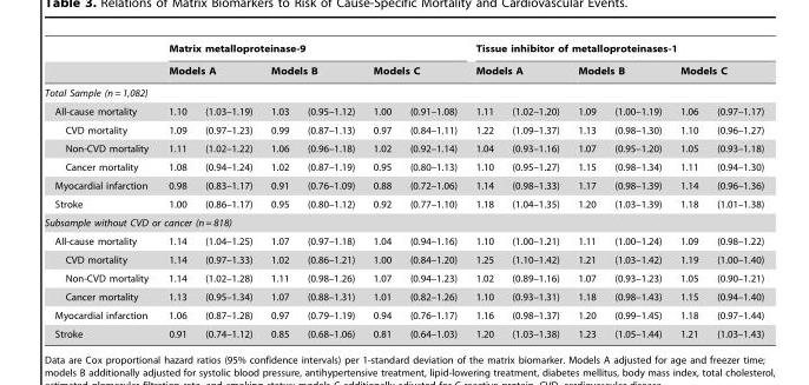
<table><thead><tr><td rowspan="2"></td><td colspan="6">Matrix metalloproteinase-9</td><td colspan="6">Tissue inhibitor of metalloproteinases-1</td></tr><tr><td colspan="2">Models A</td><td colspan="2">Models B</td><td colspan="2">Models C</td><td colspan="2">Models A</td><td colspan="2">Models B</td><td colspan="2">Models C</td></tr><tr><td colspan="13">Total Sample (n = 1,082)</td></tr><tr><td>All-cause mortality</td><td>1.10</td><td>(1.03–1.19)</td><td>1.03</td><td>(0.95–1.12)</td><td>1.00</td><td>(0.91–1.08)</td><td>1.11</td><td>(1.02–1.20)</td><td>1.09</td><td>(1.00–1.19)</td><td>1.06</td><td>(0.97–1.17)</td></tr></thead><tbody><tr><td>CVD mortality</td><td>1.09</td><td>(0.97–1.23)</td><td>0.99</td><td>(0.87–1.13)</td><td>0.97</td><td>(0.84–1.11)</td><td>1.22</td><td>(1.09–1.37)</td><td>1.13</td><td>(0.98–1.30)</td><td>1.10</td><td>(0.96–1.27)</td></tr><tr><td>Non-CVD mortality</td><td>1.11</td><td>(1.02–1.22)</td><td>1.06</td><td>(0.96–1.18)</td><td>1.02</td><td>(0.92–1.14)</td><td>1.04</td><td>(0.93–1.16)</td><td>1.07</td><td>(0.95–1.20)</td><td>1.05</td><td>(0.93–1.18)</td></tr><tr><td>Cancer mortality</td><td>1.08</td><td>(0.94–1.24)</td><td>1.02</td><td>(0.87–1.19)</td><td>0.95</td><td>(0.80–1.13)</td><td>1.10</td><td>(0.95–1.27)</td><td>1.15</td><td>(0.98–1.34)</td><td>1.11</td><td>(0.94–1.30)</td></tr><tr><td>Myocardial infarction</td><td>0.98</td><td>(0.83–1.17)</td><td>0.91</td><td>(0.76–1.09)</td><td>0.88</td><td>(0.72–1.06)</td><td>1.14</td><td>(0.98–1.33)</td><td>1.17</td><td>(0.98–1.39)</td><td>1.14</td><td>(0.96–1.36)</td></tr><tr><td>Stroke</td><td>1.00</td><td>(0.86–1.17)</td><td>0.95</td><td>(0.80–1.12)</td><td>0.92</td><td>(0.77–1.10)</td><td>1.18</td><td>(1.04–1.35)</td><td>1.20</td><td>(1.03–1.39)</td><td>1.18</td><td>(1.01–1.38)</td></tr><tr><td colspan="13">Subsample without CVD or cancer (n = 818)</td></tr><tr><td>All-cause mortality</td><td>1.14</td><td>(1.04–1.25)</td><td>1.07</td><td>(0.97–1.18)</td><td>1.04</td><td>(0.94–1.16)</td><td>1.10</td><td>(1.00–1.21)</td><td>1.11</td><td>(1.00–1.24)</td><td>1.09</td><td>(0.98–1.22)</td></tr><tr><td>CVD mortality</td><td>1.14</td><td>(0.97–1.33)</td><td>1.02</td><td>(0.86–1.21)</td><td>1.00</td><td>(0.84–1.20)</td><td>1.25</td><td>(1.10–1.42)</td><td>1.21</td><td>(1.03–1.42)</td><td>1.19</td><td>(1.00–1.40)</td></tr><tr><td>Non-CVD mortality</td><td>1.14</td><td>(1.02–1.28)</td><td>1.11</td><td>(0.98–1.26)</td><td>1.07</td><td>(0.94–1.23)</td><td>1.02</td><td>(0.89–1.16)</td><td>1.07</td><td>(0.93–1.23)</td><td>1.05</td><td>(0.90–1.21)</td></tr><tr><td>Cancer mortality</td><td>1.13</td><td>(0.95–1.34)</td><td>1.07</td><td>(0.88–1.31)</td><td>1.01</td><td>(0.82–1.26)</td><td>1.10</td><td>(0.93–1.31)</td><td>1.18</td><td>(0.98–1.43)</td><td>1.15</td><td>(0.94–1.40)</td></tr><tr><td>Myocardial infarction</td><td>1.06</td><td>(0.87–1.28)</td><td>0.97</td><td>(0.79–1.19)</td><td>0.94</td><td>(0.76–1.17)</td><td>1.16</td><td>(0.98–1.37)</td><td>1.20</td><td>(0.99–1.45)</td><td>1.18</td><td>(0.97–1.44)</td></tr><tr><td>Stroke</td><td>0.91</td><td>(0.74–1.12)</td><td>0.85</td><td>(0.68–1.06)</td><td>0.81</td><td>(0.64–1.03)</td><td>1.20</td><td>(1.03–1.38)</td><td>1.23</td><td>(1.05–1.44)</td><td>1.21</td><td>(1.03–1.43)</td></tr></tbody></table>